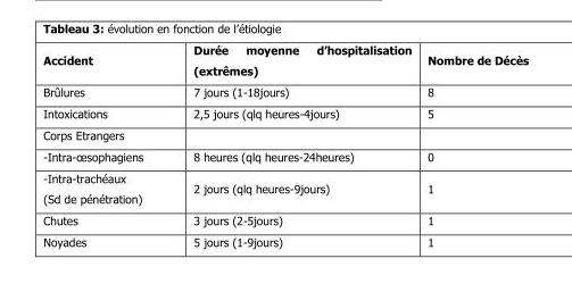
<table><thead><tr><td>Accident</td><td>Durée moyenne d’hospitalisation (extrêmes)</td><td>Nombre de Décès</td></tr></thead><tbody><tr><td>Brûlures</td><td>7 jours (1-18jours)</td><td>8</td></tr><tr><td>Intoxications</td><td>2,5 jours (qlq heures-4jours)</td><td>5</td></tr><tr><td colspan="3">Corps Etrangers</td></tr><tr><td>-Intra-œsophagiens</td><td>8 heures (qlq heures-24heures)</td><td>0</td></tr><tr><td>-Intra-trachéaux (Sd de pénétration)</td><td>2 jours (qlq heures-9jours)</td><td>1</td></tr><tr><td>Chutes</td><td>3 jours (2-5jours)</td><td>1</td></tr><tr><td>Noyades</td><td>5 jours (1-9jours)</td><td>1</td></tr></tbody></table>